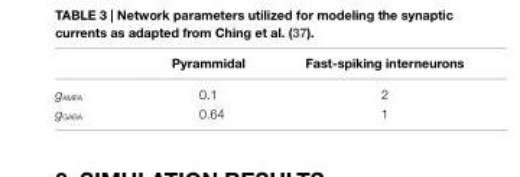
<table><thead><tr><td></td><td>Pyrammidal</td><td>Fast-spiking interneurons</td></tr></thead><tbody><tr><td>g<sub>AMPA</sub></td><td>0.1</td><td>2</td></tr><tr><td>g<sub>GABA</sub></td><td>0.64</td><td>1</td></tr></tbody></table>